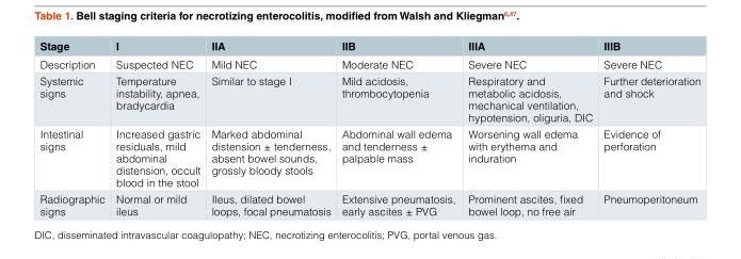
<table><thead><tr><td>Stage</td><td>I</td><td>IIA</td><td>IIB</td><td>IIIA</td><td>IIIB</td></tr></thead><tbody><tr><td>Description</td><td>Suspected NEC</td><td>Mild NEC</td><td>Moderate NEC</td><td>Severe NEC</td><td>Severe NEC</td></tr><tr><td>Systemic signs</td><td>Temperature instability, apnea, bradycardia</td><td>Similar to stage I</td><td>Mild acidosis, thrombocytopenia</td><td>Respiratory and metabolic acidosis, mechanical ventilation, hypotension, oliguria, DIC</td><td>Further deterioration and shock</td></tr><tr><td>Intestinal signs</td><td>Increased gastric residuals, mild abdominal distension, occult blood in the stool</td><td>Marked abdominal distension ± tenderness, absent bowel sounds, grossly bloody stools</td><td>Abdominal wall edema and tenderness ± palpable mass</td><td>Worsening wall edema with erythema and induration</td><td>Evidence of perforation</td></tr><tr><td>Radiographic signs</td><td>Normal or mild ileus</td><td>Ileus, dilated bowel loops, focal pneumatosis</td><td>Extensive pneumatosis, early ascites ± PVG</td><td>Prominent ascites, fixed bowel loop, no free air</td><td>Pneumoperitoneum</td></tr></tbody></table>